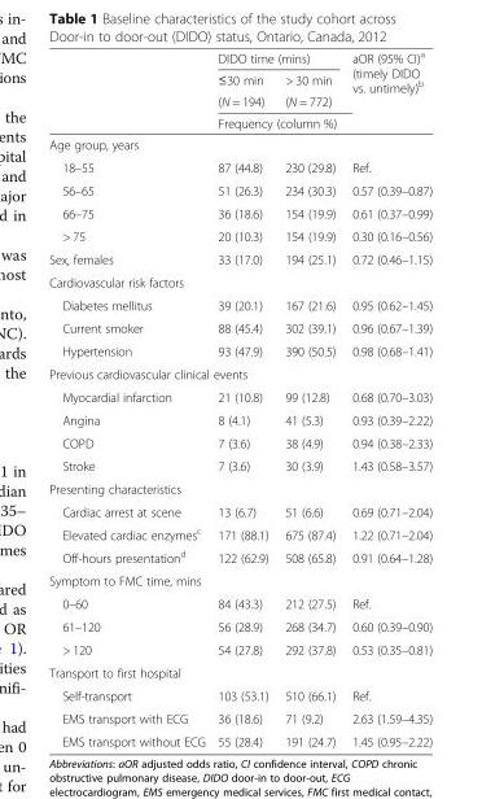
<table><thead><tr><td rowspan="4"></td><td colspan="2">DIDO time (mins)</td><td rowspan="4">aOR (95% CI)<sup>a</sup> (timely DIDO vs. untimely)<sup>b</sup></td></tr><tr><td rowspan="2">≤30 min (N = 194)</td><td rowspan="2">&gt; 30 min (N = 772)</td></tr><tr></tr><tr><td colspan="2">Frequency (column %)</td></tr></thead><tbody><tr><td colspan="4">Age group, years</td></tr><tr><td>18–55</td><td>87 (44.8)</td><td>230 (29.8)</td><td>Ref.</td></tr><tr><td>56–65</td><td>51 (26.3)</td><td>234 (30.3)</td><td>0.57 (0.39–0.87)</td></tr><tr><td>66–75</td><td>36 (18.6)</td><td>154 (19.9)</td><td>0.61 (0.37–0.99)</td></tr><tr><td>&gt; 75</td><td>20 (10.3)</td><td>154 (19.9)</td><td>0.30 (0.16–0.56)</td></tr><tr><td>Sex, females</td><td>33 (17.0)</td><td>194 (25.1)</td><td>0.72 (0.46–1.15)</td></tr><tr><td colspan="4">Cardiovascular risk factors</td></tr><tr><td>Diabetes mellitus</td><td>39 (20.1)</td><td>167 (21.6)</td><td>0.95 (0.62–1.45)</td></tr><tr><td>Current smoker</td><td>88 (45.4)</td><td>302 (39.1)</td><td>0.96 (0.67–1.39)</td></tr><tr><td>Hypertension</td><td>93 (47.9)</td><td>390 (50.5)</td><td>0.98 (0.68–1.41)</td></tr><tr><td colspan="4">Previous cardiovascular clinical events</td></tr><tr><td>Myocardial infarction</td><td>21 (10.8)</td><td>99 (12.8)</td><td>0.68 (0.70–3.03)</td></tr><tr><td>Angina</td><td>8 (4.1)</td><td>41 (5.3)</td><td>0.93 (0.39–2.22)</td></tr><tr><td>COPD</td><td>7 (3.6)</td><td>38 (4.9)</td><td>0.94 (0.38–2.33)</td></tr><tr><td>Stroke</td><td>7 (3.6)</td><td>30 (3.9)</td><td>1.43 (0.58–3.57)</td></tr><tr><td colspan="4">Presenting characteristics</td></tr><tr><td>Cardiac arrest at scene</td><td>13 (6.7)</td><td>51 (6.6)</td><td>0.69 (0.71–2.04)</td></tr><tr><td>Elevated cardiac enzymes<sup>c</sup></td><td>171 (88.1)</td><td>675 (87.4)</td><td>1.22 (0.71–2.04)</td></tr><tr><td>Off-hours presentation<sup>d</sup></td><td>122 (62.9)</td><td>508 (65.8)</td><td>0.91 (0.64–1.28)</td></tr><tr><td colspan="4">Symptom to FMC time, mins</td></tr><tr><td>0–60</td><td>84 (43.3)</td><td>212 (27.5)</td><td>Ref.</td></tr><tr><td>61–120</td><td>56 (28.9)</td><td>268 (34.7)</td><td>0.60 (0.39–0.90)</td></tr><tr><td>&gt; 120</td><td>54 (27.8)</td><td>292 (37.8)</td><td>0.53 (0.35–0.81)</td></tr><tr><td colspan="4">Transport to first hospital</td></tr><tr><td>Self-transport</td><td>103 (53.1)</td><td>510 (66.1)</td><td>Ref.</td></tr><tr><td>EMS transport with ECG</td><td>36 (18.6)</td><td>71 (9.2)</td><td>2.63 (1.59–4.35)</td></tr><tr><td>EMS transport without ECG</td><td>55 (28.4)</td><td>191 (24.7)</td><td>1.45 (0.95–2.22)</td></tr></tbody></table>